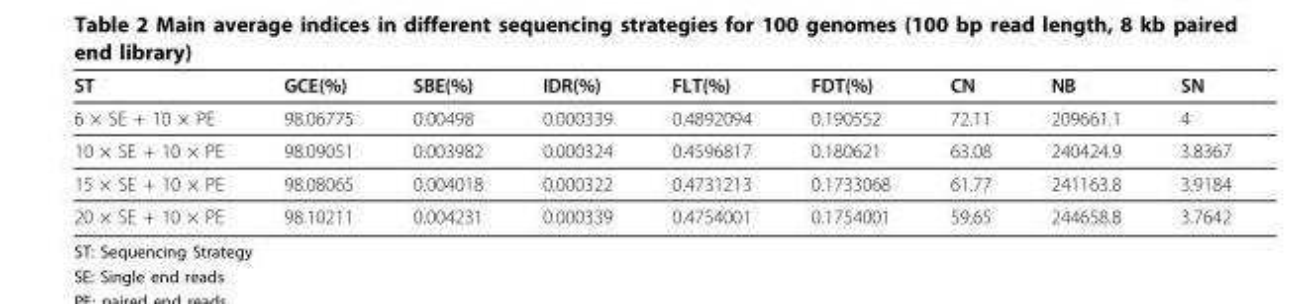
<table><thead><tr><td>ST</td><td>GCE(%)</td><td>SBE(%)</td><td>IDR(%)</td><td>FLT(%)</td><td>FDT(%)</td><td>CN</td><td>NB</td><td>SN</td></tr></thead><tbody><tr><td>6 × SE + 10 × PE</td><td>98.06775</td><td>0.00498</td><td>0.000339</td><td>0.4892094</td><td>0.190552</td><td>72.11</td><td>209661.1</td><td>4</td></tr><tr><td>10 × SE + 10 × PE</td><td>98.09051</td><td>0.003982</td><td>0.000324</td><td>0.4596817</td><td>0.180621</td><td>63.08</td><td>240424.9</td><td>3.8367</td></tr><tr><td>15 × SE + 10 × PE</td><td>98.08065</td><td>0.004018</td><td>0.000322</td><td>0.4731213</td><td>0.1733068</td><td>61.77</td><td>241163.8</td><td>3.9184</td></tr><tr><td>20 × SE + 10 × PE</td><td>98.10211</td><td>0.004231</td><td>0.000339</td><td>0.4754001</td><td>0.1754001</td><td>59.65</td><td>244658.8</td><td>3.7642</td></tr></tbody></table>